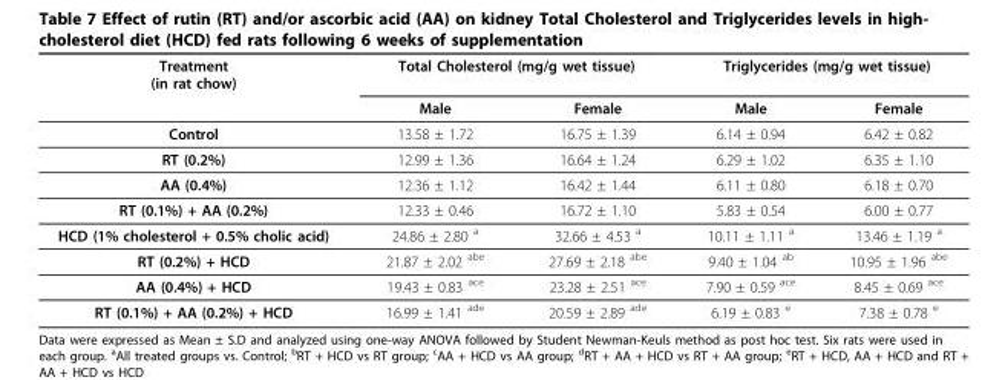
<table><thead><tr><td rowspan="2">Treatment (in rat chow)</td><td colspan="2">Total Cholesterol (mg/g wet tissue)</td><td colspan="2">Triglycerides (mg/g wet tissue)</td></tr><tr><td>Male</td><td>Female</td><td>Male</td><td>Female</td></tr></thead><tbody><tr><td>Control</td><td>13.58 ± 1.72</td><td>16.75 ± 1.39</td><td>6.14 ± 0.94</td><td>6.42 ± 0.82</td></tr><tr><td>RT (0.2%)</td><td>12.99 ± 1.36</td><td>16.64 ± 1.24</td><td>6.29 ± 1.02</td><td>6.35 ± 1.10</td></tr><tr><td>AA (0.4%)</td><td>12.36 ± 1.12</td><td>16.42 ± 1.44</td><td>6.11 ± 0.80</td><td>6.18 ± 0.70</td></tr><tr><td>RT (0.1%) + AA (0.2%)</td><td>12.33 ± 0.46</td><td>16.72 ± 1.10</td><td>5.83 ± 0.54</td><td>6.00 ± 0.77</td></tr><tr><td>HCD (1% cholesterol + 0.5% cholic acid)</td><td>24.86 ± 2.80 <sup>a</sup></td><td>32.66 ± 4.53 <sup>a</sup></td><td>10.11 ± 1.11 <sup>a</sup></td><td>13.46 ± 1.19 <sup>a</sup></td></tr><tr><td>RT (0.2%) + HCD</td><td>21.87 ± 2.02 <sup>abe</sup></td><td>27.69 ± 2.18 <sup>abe</sup></td><td>9.40 ± 1.04 <sup>ab</sup></td><td>10.95 ± 1.96 <sup>abe</sup></td></tr><tr><td>AA (0.4%) + HCD</td><td>19.43 ± 0.83 <sup>ace</sup></td><td>23.28 ± 2.51 <sup>ace</sup></td><td>7.90 ± 0.59 <sup>ace</sup></td><td>8.45 ± 0.69 <sup>ace</sup></td></tr><tr><td>RT (0.1%) + AA (0.2%) + HCD</td><td>16.99 ± 1.41 <sup>ade</sup></td><td>20.59 ± 2.89 <sup>ade</sup></td><td>6.19 ± 0.83 <sup>e</sup></td><td>7.38 ± 0.78 <sup>e</sup></td></tr></tbody></table>